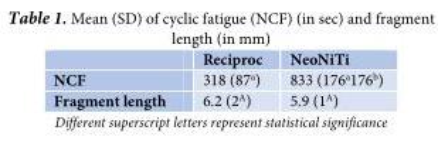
<table><thead><tr><td></td><td>Reciproc</td><td>NeoNiTi</td></tr></thead><tbody><tr><td>NCF</td><td>318 (87<sup>a</sup>)</td><td>833 (176<sup>a</sup>176<sup>b</sup>)</td></tr><tr><td>Fragment length</td><td>6.2 (2<sup>A</sup>)</td><td>5.9 (1<sup>A</sup>)</td></tr></tbody></table>